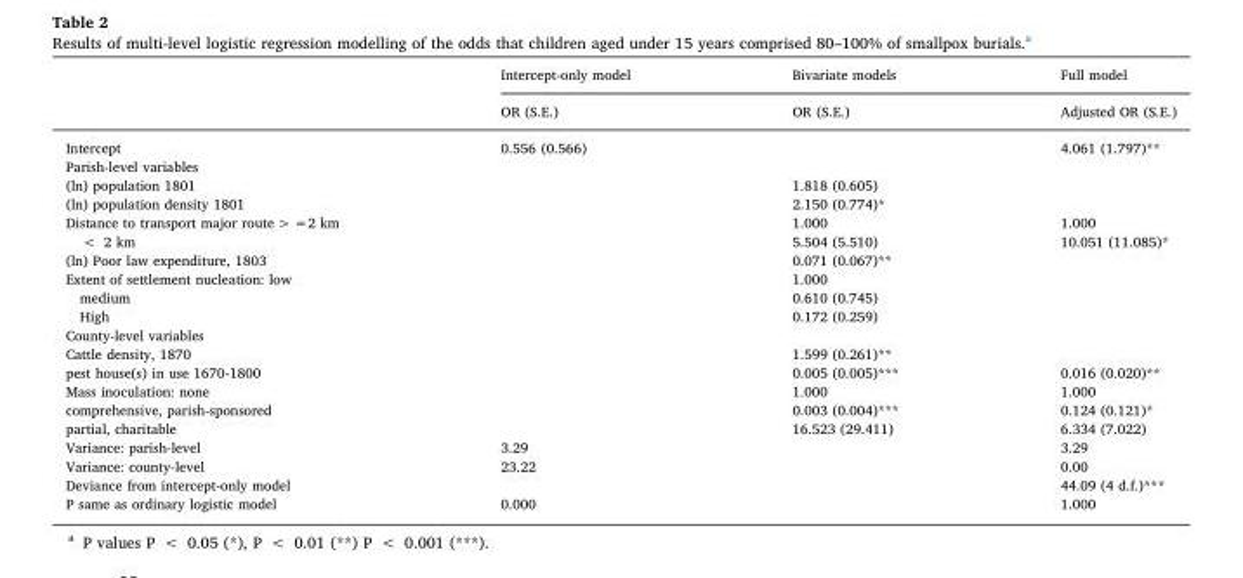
<table><thead><tr><td rowspan="2"></td><td rowspan="2">Intercept-only model OR (S.E.)</td><td rowspan="2">Bivariate models OR (S.E.)</td><td rowspan="2">Full model Adjusted OR (S.E.)</td></tr><tr></tr></thead><tbody><tr><td>Intercept</td><td>0.556 (0.566)</td><td></td><td>4.061 (1.797)**</td></tr><tr><td colspan="4">Parish-level variables</td></tr><tr><td>(ln) population 1801</td><td></td><td>1.818 (0.605)</td><td></td></tr><tr><td>(ln) population density 1801</td><td></td><td>2.150 (0.774)*</td><td></td></tr><tr><td>Distance to transport major route &gt; =2 km</td><td></td><td>1.000</td><td>1.000</td></tr><tr><td>&lt; 2 km</td><td></td><td>5.504 (5.510)</td><td>10.051 (11.085)*</td></tr><tr><td>(ln) Poor law expenditure, 1803</td><td></td><td>0.071 (0.067)**</td><td></td></tr><tr><td>Extent of settlement nucleation: low</td><td></td><td>1.000</td><td></td></tr><tr><td>medium</td><td></td><td>0.610 (0.745)</td><td></td></tr><tr><td>High</td><td></td><td>0.172 (0.259)</td><td></td></tr><tr><td colspan="4">County-level variables</td></tr><tr><td>Cattle density, 1870</td><td></td><td>1.599 (0.261)**</td><td></td></tr><tr><td>pest house(s) in use 1670-1800</td><td></td><td>0.005 (0.005)***</td><td>0.016 (0.020)**</td></tr><tr><td>Mass inoculation: none</td><td></td><td>1.000</td><td>1.000</td></tr><tr><td>comprehensive, parish-sponsored</td><td></td><td>0.003 (0.004)***</td><td>0.124 (0.121)*</td></tr><tr><td>partial, charitable</td><td></td><td>16.523 (29.411)</td><td>6.334 (7.022)</td></tr><tr><td>Variance: parish-level</td><td>3.29</td><td></td><td>3.29</td></tr><tr><td>Variance: county-level</td><td>23.22</td><td></td><td>0.00</td></tr><tr><td>Deviance from intercept-only model</td><td></td><td></td><td>44.09 (4 d.f.)***</td></tr><tr><td>P same as ordinary logistic model</td><td>0.000</td><td></td><td>1.000</td></tr></tbody></table>